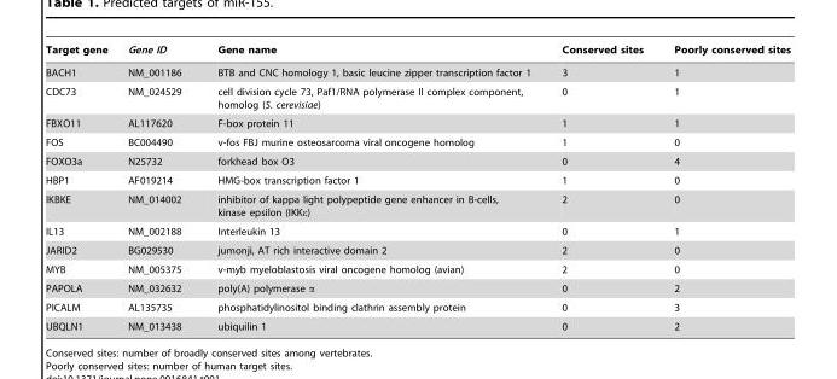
<table><thead><tr><td>Target gene</td><td>Gene ID</td><td>Gene name</td><td>Conserved sites</td><td>Poorly conserved sites</td></tr></thead><tbody><tr><td>BACH1</td><td>NM_001186</td><td>BTB and CNC homology 1, basic leucine zipper transcription factor 1</td><td>3</td><td>1</td></tr><tr><td>CDC73</td><td>NM_024529</td><td>cell division cycle 73, Paf1/RNA polymerase II complex component, homolog (S. cerevisiae)</td><td>0</td><td>1</td></tr><tr><td>FBXO11</td><td>AL117620</td><td>F-box protein 11</td><td>1</td><td>1</td></tr><tr><td>FOS</td><td>BC004490</td><td>v-fos FBJ murine osteosarcoma viral oncogene homolog</td><td>1</td><td>0</td></tr><tr><td>FOXO3a</td><td>N25732</td><td>forkhead box O3</td><td>0</td><td>4</td></tr><tr><td>HBP1</td><td>AF019214</td><td>HMG-box transcription factor 1</td><td>1</td><td>0</td></tr><tr><td>IKBKE</td><td>NM_014002</td><td>inhibitor of kappa light polypeptide gene enhancer in B-cells, kinase epsilon (IKKε)</td><td>2</td><td>0</td></tr><tr><td>IL13</td><td>NM_002188</td><td>Interleukin 13</td><td>0</td><td>1</td></tr><tr><td>JARID2</td><td>BG029530</td><td>jumonji, AT rich interactive domain 2</td><td>2</td><td>0</td></tr><tr><td>MYB</td><td>NM_005375</td><td>v-myb myeloblastosis viral oncogene homolog (avian)</td><td>2</td><td>0</td></tr><tr><td>PAPOLA</td><td>NM_032632</td><td>poly(A) polymerase α</td><td>0</td><td>2</td></tr><tr><td>PICALM</td><td>AL135735</td><td>phosphatidylinositol binding clathrin assembly protein</td><td>0</td><td>3</td></tr><tr><td>UBQLN1</td><td>NM_013438</td><td>ubiquilin 1</td><td>0</td><td>2</td></tr></tbody></table>